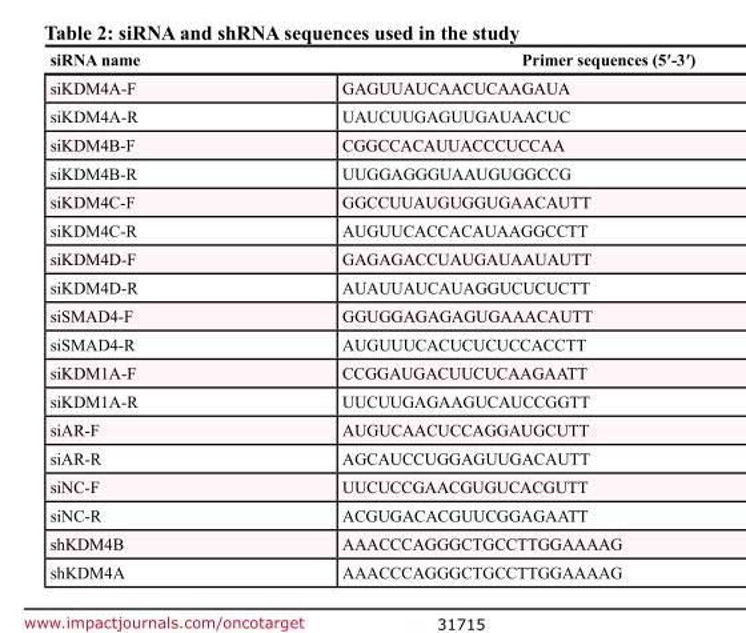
<table><thead><tr><td>siRNA name</td><td>Primer sequences (5′-3′)</td></tr></thead><tbody><tr><td>siKDM4A-F</td><td>GAGUUAUCAACUCAAGAUA</td></tr><tr><td>siKDM4A-R</td><td>UAUCUUGAGUUGAUAACUC</td></tr><tr><td>siKDM4B-F</td><td>CGGCCACAUUACCCUCCAA</td></tr><tr><td>siKDM4B-R</td><td>UUGGAGGGUAAUGUGGCCG</td></tr><tr><td>siKDM4C-F</td><td>GGCCUUAUGUGGUGAACAUTT</td></tr><tr><td>siKDM4C-R</td><td>AUGUUCACCACAUAAGGCCTT</td></tr><tr><td>siKDM4D-F</td><td>GAGAGACCUAUGAUAAUAUTT</td></tr><tr><td>siKDM4D-R</td><td>AUAUUAUCAUAGGUCUCUCTT</td></tr><tr><td>siSMAD4-F</td><td>GGUGGAGAGAGUGAAACAUTT</td></tr><tr><td>siSMAD4-R</td><td>AUGUUUCACUCUCUCCACCTT</td></tr><tr><td>siKDM1A-F</td><td>CCGGAUGACUUCUCAAGAATT</td></tr><tr><td>siKDM1A-R</td><td>UUCUUGAGAAGUCAUCCGGTT</td></tr><tr><td>siAR-F</td><td>AUGUCAACUCCAGGAUGCUTT</td></tr><tr><td>siAR-R</td><td>AGCAUCCUGGAGUUGACAUTT</td></tr><tr><td>siNC-F</td><td>UUCUCCGAACGUGUCACGUTT</td></tr><tr><td>siNC-R</td><td>ACGUGACACGUUCGGAGAATT</td></tr><tr><td>shKDM4B</td><td>AAACCCAGGGCTGCCTTGGAAAAG</td></tr><tr><td>shKDM4A</td><td>AAACCCAGGGCTGCCTTGGAAAAG</td></tr></tbody></table>